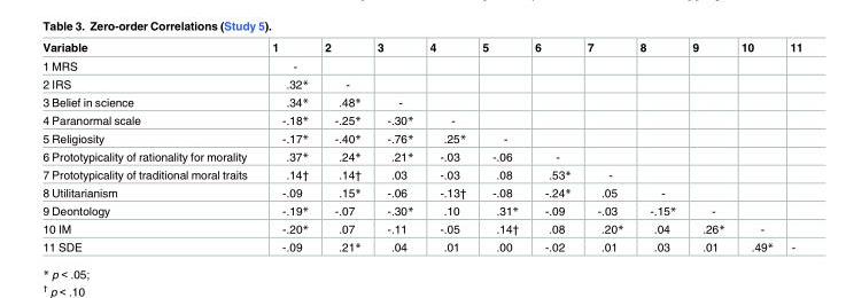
<table><thead><tr><td>Variable</td><td>1</td><td>2</td><td>3</td><td>4</td><td>5</td><td>6</td><td>7</td><td>8</td><td>9</td><td>10</td><td>11</td></tr></thead><tbody><tr><td>1 MRS</td><td>-</td><td></td><td></td><td></td><td></td><td></td><td></td><td></td><td></td><td></td><td></td></tr><tr><td>2 IRS</td><td>.32*</td><td>-</td><td></td><td></td><td></td><td></td><td></td><td></td><td></td><td></td><td></td></tr><tr><td>3 Belief in science</td><td>.34*</td><td>.48*</td><td>-</td><td></td><td></td><td></td><td></td><td></td><td></td><td></td><td></td></tr><tr><td>4 Paranormal scale</td><td>-.18*</td><td>-.25*</td><td>-.30*</td><td>-</td><td></td><td></td><td></td><td></td><td></td><td></td><td></td></tr><tr><td>5 Religiosity</td><td>-.17*</td><td>-.40*</td><td>-.76*</td><td>.25*</td><td>-</td><td></td><td></td><td></td><td></td><td></td><td></td></tr><tr><td>6 Prototypicality of rationality for morality</td><td>.37*</td><td>.24*</td><td>.21*</td><td>-.03</td><td>-.06</td><td>-</td><td></td><td></td><td></td><td></td><td></td></tr><tr><td>7 Prototypicality of traditional moral traits</td><td>.14†</td><td>.14†</td><td>.03</td><td>-.03</td><td>.08</td><td>.53*</td><td>-</td><td></td><td></td><td></td><td></td></tr><tr><td>8 Utilitarianism</td><td>-.09</td><td>.15*</td><td>-.06</td><td>-.13†</td><td>-.08</td><td>-.24*</td><td>.05</td><td>-</td><td></td><td></td><td></td></tr><tr><td>9 Deontology</td><td>-.19*</td><td>-.07</td><td>-.30*</td><td>.10</td><td>.31*</td><td>-.09</td><td>-.03</td><td>-.15*</td><td>-</td><td></td><td></td></tr><tr><td>10 IM</td><td>-.20*</td><td>.07</td><td>-.11</td><td>-.05</td><td>.14†</td><td>.08</td><td>.20*</td><td>.04</td><td>.26*</td><td>-</td><td></td></tr><tr><td>11 SDE</td><td>-.09</td><td>.21*</td><td>.04</td><td>.01</td><td>.00</td><td>-.02</td><td>.01</td><td>.03</td><td>.01</td><td>.49*</td><td>-</td></tr></tbody></table>